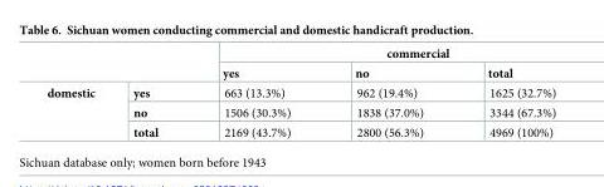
<table><thead><tr><td rowspan="2"></td><td rowspan="2"></td><td colspan="3">commercial</td></tr><tr><td>yes</td><td>no</td><td>total</td></tr></thead><tbody><tr><td rowspan="3">domestic</td><td>yes</td><td>663 (13.3%)</td><td>962 (19.4%)</td><td>1625 (32.7%)</td></tr><tr><td>no</td><td>1506 (30.3%)</td><td>1838 (37.0%)</td><td>3344 (67.3%)</td></tr><tr><td>total</td><td>2169 (43.7%)</td><td>2800 (56.3%)</td><td>4969 (100%)</td></tr></tbody></table>